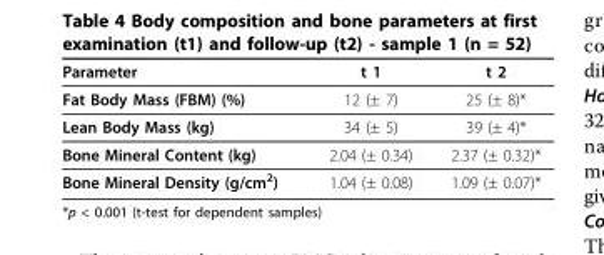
<table><thead><tr><td>Parameter</td><td>t 1</td><td>t 2</td></tr></thead><tbody><tr><td>Fat Body Mass (FBM) (%)</td><td>12 (± 7)</td><td>25 (± 8)*</td></tr><tr><td>Lean Body Mass (kg)</td><td>34 (± 5)</td><td>39 (± 4)*</td></tr><tr><td>Bone Mineral Content (kg)</td><td>2.04 (± 0.34)</td><td>2.37 (± 0.32)*</td></tr><tr><td>Bone Mineral Density (g/cm<sup>2</sup>)</td><td>1.04 (± 0.08)</td><td>1.09 (± 0.07)*</td></tr></tbody></table>